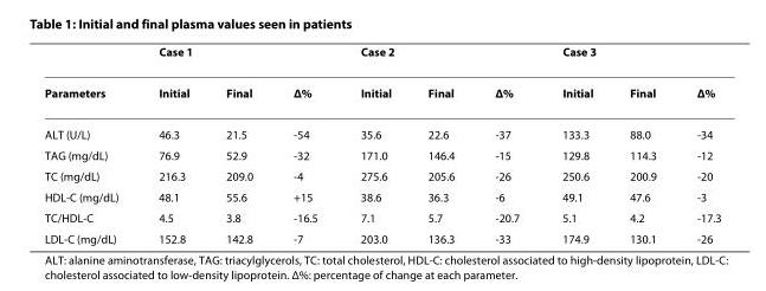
<table><thead><tr><td rowspan="2">Parameters</td><td colspan="3">Case 1</td><td colspan="3">Case 2</td><td colspan="3">Case 3</td></tr><tr><td>Initial</td><td>Final</td><td>Δ%</td><td>Initial</td><td>Final</td><td>Δ%</td><td>Initial</td><td>Final</td><td>Δ%</td></tr></thead><tbody><tr><td>ALT (U/L)</td><td>46.3</td><td>21.5</td><td>-54</td><td>35.6</td><td>22.6</td><td>-37</td><td>133.3</td><td>88.0</td><td>-34</td></tr><tr><td>TAG (mg/dL)</td><td>76.9</td><td>52.9</td><td>-32</td><td>171.0</td><td>146.4</td><td>-15</td><td>129.8</td><td>114.3</td><td>-12</td></tr><tr><td>TC (mg/dL)</td><td>216.3</td><td>209.0</td><td>-4</td><td>275.6</td><td>205.6</td><td>-26</td><td>250.6</td><td>200.9</td><td>-20</td></tr><tr><td>HDL-C (mg/dL)</td><td>48.1</td><td>55.6</td><td>+15</td><td>38.6</td><td>36.3</td><td>-6</td><td>49.1</td><td>47.6</td><td>-3</td></tr><tr><td>TC/HDL-C</td><td>4.5</td><td>3.8</td><td>-16.5</td><td>7.1</td><td>5.7</td><td>-20.7</td><td>5.1</td><td>4.2</td><td>-17.3</td></tr><tr><td>LDL-C (mg/dL)</td><td>152.8</td><td>142.8</td><td>-7</td><td>203.0</td><td>136.3</td><td>-33</td><td>174.9</td><td>130.1</td><td>-26</td></tr></tbody></table>